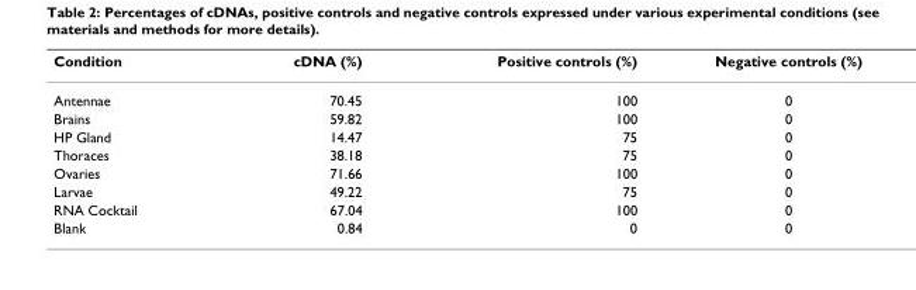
<table><thead><tr><td>Condition</td><td>cDNA (%)</td><td>Positive controls (%)</td><td>Negative controls (%)</td></tr></thead><tbody><tr><td>Antennae</td><td>70.45</td><td>100</td><td>0</td></tr><tr><td>Brains</td><td>59.82</td><td>100</td><td>0</td></tr><tr><td>HP Gland</td><td>14.47</td><td>75</td><td>0</td></tr><tr><td>Thoraces</td><td>38.18</td><td>75</td><td>0</td></tr><tr><td>Ovaries</td><td>71.66</td><td>100</td><td>0</td></tr><tr><td>Larvae</td><td>49.22</td><td>75</td><td>0</td></tr><tr><td>RNA Cocktail</td><td>67.04</td><td>100</td><td>0</td></tr><tr><td>Blank</td><td>0.84</td><td>0</td><td>0</td></tr></tbody></table>